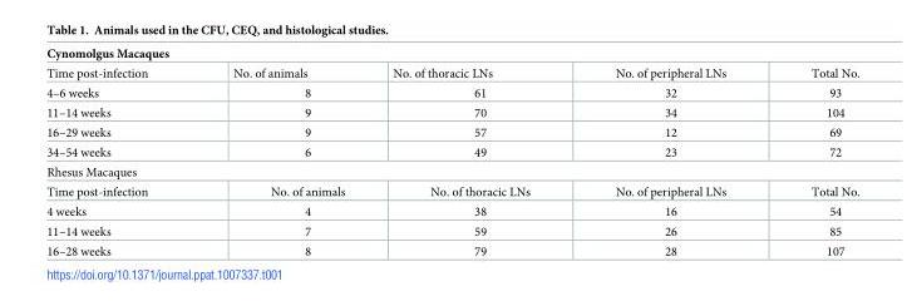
<table><thead><tr><td colspan="5">Cynomolgus Macaques</td></tr><tr><td>Time post-infection</td><td>No. of animals</td><td>No. of thoracic LNs</td><td>No. of peripheral LNs</td><td>Total No.</td></tr></thead><tbody><tr><td>4–6 weeks</td><td>8</td><td>61</td><td>32</td><td>93</td></tr><tr><td>11–14 weeks</td><td>9</td><td>70</td><td>34</td><td>104</td></tr><tr><td>16–29 weeks</td><td>9</td><td>57</td><td>12</td><td>69</td></tr><tr><td>34–54 weeks</td><td>6</td><td>49</td><td>23</td><td>72</td></tr><tr><td colspan="5">Rhesus Macaques</td></tr><tr><td>Time post-infection</td><td>No. of animals</td><td>No. of thoracic LNs</td><td>No. of peripheral LNs</td><td>Total No.</td></tr><tr><td>4 weeks</td><td>4</td><td>38</td><td>16</td><td>54</td></tr><tr><td>11–14 weeks</td><td>7</td><td>59</td><td>26</td><td>85</td></tr><tr><td>16–28 weeks</td><td>8</td><td>79</td><td>28</td><td>107</td></tr></tbody></table>